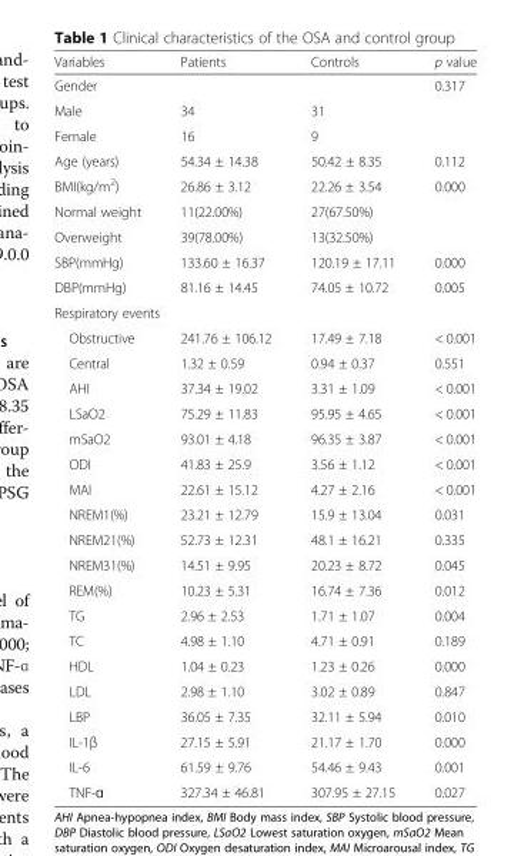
<table><thead><tr><td>Variables</td><td>Patients</td><td>Controls</td><td>p value</td></tr></thead><tbody><tr><td>Gender</td><td></td><td></td><td>0.317</td></tr><tr><td>Male</td><td>34</td><td>31</td><td></td></tr><tr><td>Female</td><td>16</td><td>9</td><td></td></tr><tr><td>Age (years)</td><td>54.34 ± 14.38</td><td>50.42 ± 8.35</td><td>0.112</td></tr><tr><td>BMI(kg/m<sup>2</sup>)</td><td>26.86 ± 3.12</td><td>22.26 ± 3.54</td><td>0.000</td></tr><tr><td>Normal weight</td><td>11(22.00%)</td><td>27(67.50%)</td><td></td></tr><tr><td>Overweight</td><td>39(78.00%)</td><td>13(32.50%)</td><td></td></tr><tr><td>SBP(mmHg)</td><td>133.60 ± 16.37</td><td>120.19 ± 17.11</td><td>0.000</td></tr><tr><td>DBP(mmHg)</td><td>81.16 ± 14.45</td><td>74.05 ± 10.72</td><td>0.005</td></tr><tr><td colspan="4">Respiratory events</td></tr><tr><td>Obstructive</td><td>241.76 ± 106.12</td><td>17.49 ± 7.18</td><td>&lt; 0.001</td></tr><tr><td>Central</td><td>1.32 ± 0.59</td><td>0.94 ± 0.37</td><td>0.551</td></tr><tr><td>AHI</td><td>37.34 ± 19.02</td><td>3.31 ± 1.09</td><td>&lt; 0.001</td></tr><tr><td>LSaO2</td><td>75.29 ± 11.83</td><td>95.95 ± 4.65</td><td>&lt; 0.001</td></tr><tr><td>mSaO2</td><td>93.01 ± 4.18</td><td>96.35 ± 3.87</td><td>&lt; 0.001</td></tr><tr><td>ODI</td><td>41.83 ± 25.9</td><td>3.56 ± 1.12</td><td>&lt; 0.001</td></tr><tr><td>MAI</td><td>22.61 ± 15.12</td><td>4.27 ± 2.16</td><td>&lt; 0.001</td></tr><tr><td>NREM1(%)</td><td>23.21 ± 12.79</td><td>15.9 ± 13.04</td><td>0.031</td></tr><tr><td>NREM21(%)</td><td>52.73 ± 12.31</td><td>48.1 ± 16.21</td><td>0.335</td></tr><tr><td>NREM31(%)</td><td>14.51 ± 9.95</td><td>20.23 ± 8.72</td><td>0.045</td></tr><tr><td>REM(%)</td><td>10.23 ± 5.31</td><td>16.74 ± 7.36</td><td>0.012</td></tr><tr><td>TG</td><td>2.96 ± 2.53</td><td>1.71 ± 1.07</td><td>0.004</td></tr><tr><td>TC</td><td>4.98 ± 1.10</td><td>4.71 ± 0.91</td><td>0.189</td></tr><tr><td>HDL</td><td>1.04 ± 0.23</td><td>1.23 ± 0.26</td><td>0.000</td></tr><tr><td>LDL</td><td>2.98 ± 1.10</td><td>3.02 ± 0.89</td><td>0.847</td></tr><tr><td>LBP</td><td>36.05 ± 7.35</td><td>32.11 ± 5.94</td><td>0.010</td></tr><tr><td>IL-1β</td><td>27.15 ± 5.91</td><td>21.17 ± 1.70</td><td>0.000</td></tr><tr><td>IL-6</td><td>61.59 ± 9.76</td><td>54.46 ± 9.43</td><td>0.001</td></tr><tr><td>TNF-ɑ</td><td>327.34 ± 46.81</td><td>307.95 ± 27.15</td><td>0.027</td></tr></tbody></table>